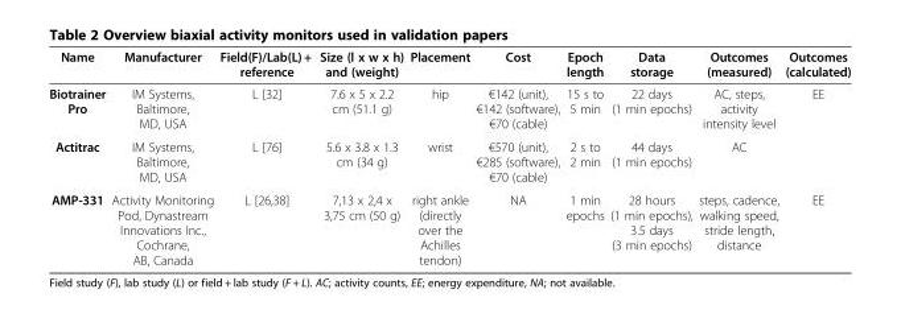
<table><thead><tr><td>Name</td><td>Manufacturer</td><td>Field(F)/Lab(L) + reference</td><td>Size (l x w x h) and (weight)</td><td>Placement</td><td>Cost</td><td>Epoch length</td><td>Data storage</td><td>Outcomes (measured)</td><td>Outcomes (calculated)</td></tr></thead><tbody><tr><td>Biotrainer Pro</td><td>IM Systems, Baltimore, MD, USA</td><td>L [32]</td><td>7.6 x 5 x 2.2 cm (51.1 g)</td><td>hip</td><td>€142 (unit), €142 (software), €70 (cable)</td><td>15 s to 5 min</td><td>22 days (1 min epochs)</td><td>AC, steps, activity intensity level</td><td>EE</td></tr><tr><td>Actitrac</td><td>IM Systems, Baltimore, MD, USA</td><td>L [76]</td><td>5.6 x 3.8 x 1.3 cm (34 g)</td><td>wrist</td><td>€570 (unit), €285 (software), €70 (cable)</td><td>2 s to 2 min</td><td>44 days (1 min epochs)</td><td>AC</td><td></td></tr><tr><td>AMP-331</td><td>Activity Monitoring Pod, Dynastream Innovations Inc., Cochrane, AB, Canada</td><td>L [26,38]</td><td>7,13 x 2,4 x 3,75 cm (50 g)</td><td>right ankle (directly over the Achilles tendon)</td><td>NA</td><td>1 min epochs</td><td>28 hours (1 min epochs), 3.5 days (3 min epochs)</td><td>steps, cadence, walking speed, stride length, distance</td><td>EE</td></tr></tbody></table>